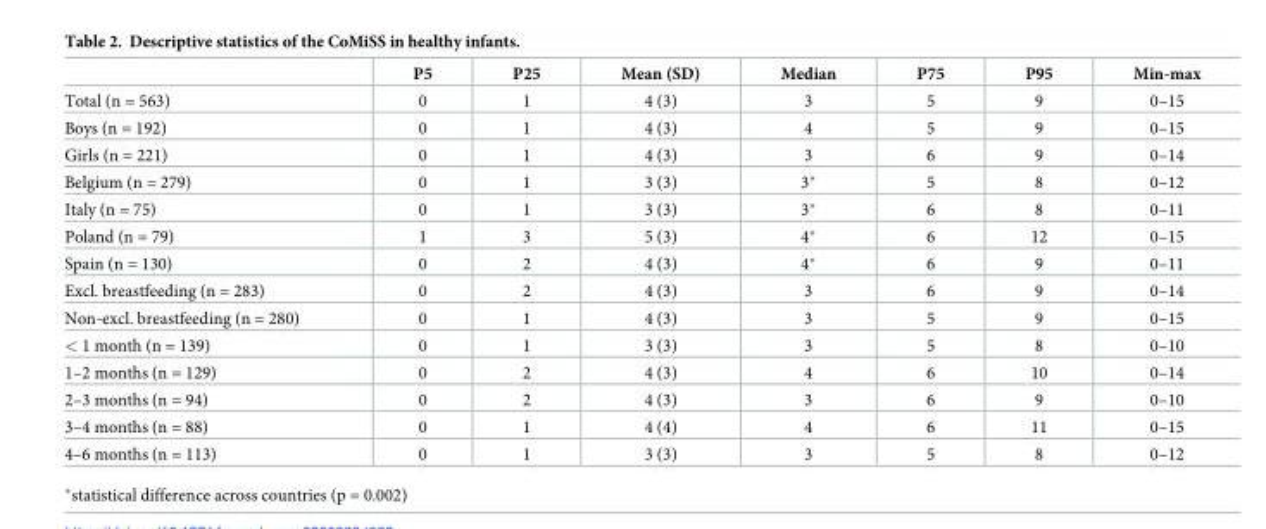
<table><thead><tr><td></td><td>P5</td><td>P25</td><td>Mean (SD)</td><td>Median</td><td>P75</td><td>P95</td><td>Min-max</td></tr></thead><tbody><tr><td>Total (n = 563)</td><td>0</td><td>1</td><td>4 (3)</td><td>3</td><td>5</td><td>9</td><td>0–15</td></tr><tr><td>Boys (n = 192)</td><td>0</td><td>1</td><td>4 (3)</td><td>4</td><td>5</td><td>9</td><td>0–15</td></tr><tr><td>Girls (n = 221)</td><td>0</td><td>1</td><td>4 (3)</td><td>3</td><td>6</td><td>9</td><td>0–14</td></tr><tr><td>Belgium (n = 279)</td><td>0</td><td>1</td><td>3 (3)</td><td>3*</td><td>5</td><td>8</td><td>0–12</td></tr><tr><td>Italy (n = 75)</td><td>0</td><td>1</td><td>3 (3)</td><td>3*</td><td>6</td><td>8</td><td>0–11</td></tr><tr><td>Poland (n = 79)</td><td>1</td><td>3</td><td>5 (3)</td><td>4*</td><td>6</td><td>12</td><td>0–15</td></tr><tr><td>Spain (n = 130)</td><td>0</td><td>2</td><td>4 (3)</td><td>4*</td><td>6</td><td>9</td><td>0–11</td></tr><tr><td>Excl. breastfeeding (n = 283)</td><td>0</td><td>2</td><td>4 (3)</td><td>3</td><td>6</td><td>9</td><td>0–14</td></tr><tr><td>Non-excl. breastfeeding (n = 280)</td><td>0</td><td>1</td><td>4 (3)</td><td>3</td><td>5</td><td>9</td><td>0–15</td></tr><tr><td>&lt; 1 month (n = 139)</td><td>0</td><td>1</td><td>3 (3)</td><td>3</td><td>5</td><td>8</td><td>0–10</td></tr><tr><td>1–2 months (n = 129)</td><td>0</td><td>2</td><td>4 (3)</td><td>4</td><td>6</td><td>10</td><td>0–14</td></tr><tr><td>2–3 months (n = 94)</td><td>0</td><td>2</td><td>4 (3)</td><td>3</td><td>6</td><td>9</td><td>0–10</td></tr><tr><td>3–4 months (n = 88)</td><td>0</td><td>1</td><td>4 (4)</td><td>4</td><td>6</td><td>11</td><td>0–15</td></tr><tr><td>4–6 months (n = 113)</td><td>0</td><td>1</td><td>3 (3)</td><td>3</td><td>5</td><td>8</td><td>0–12</td></tr></tbody></table>